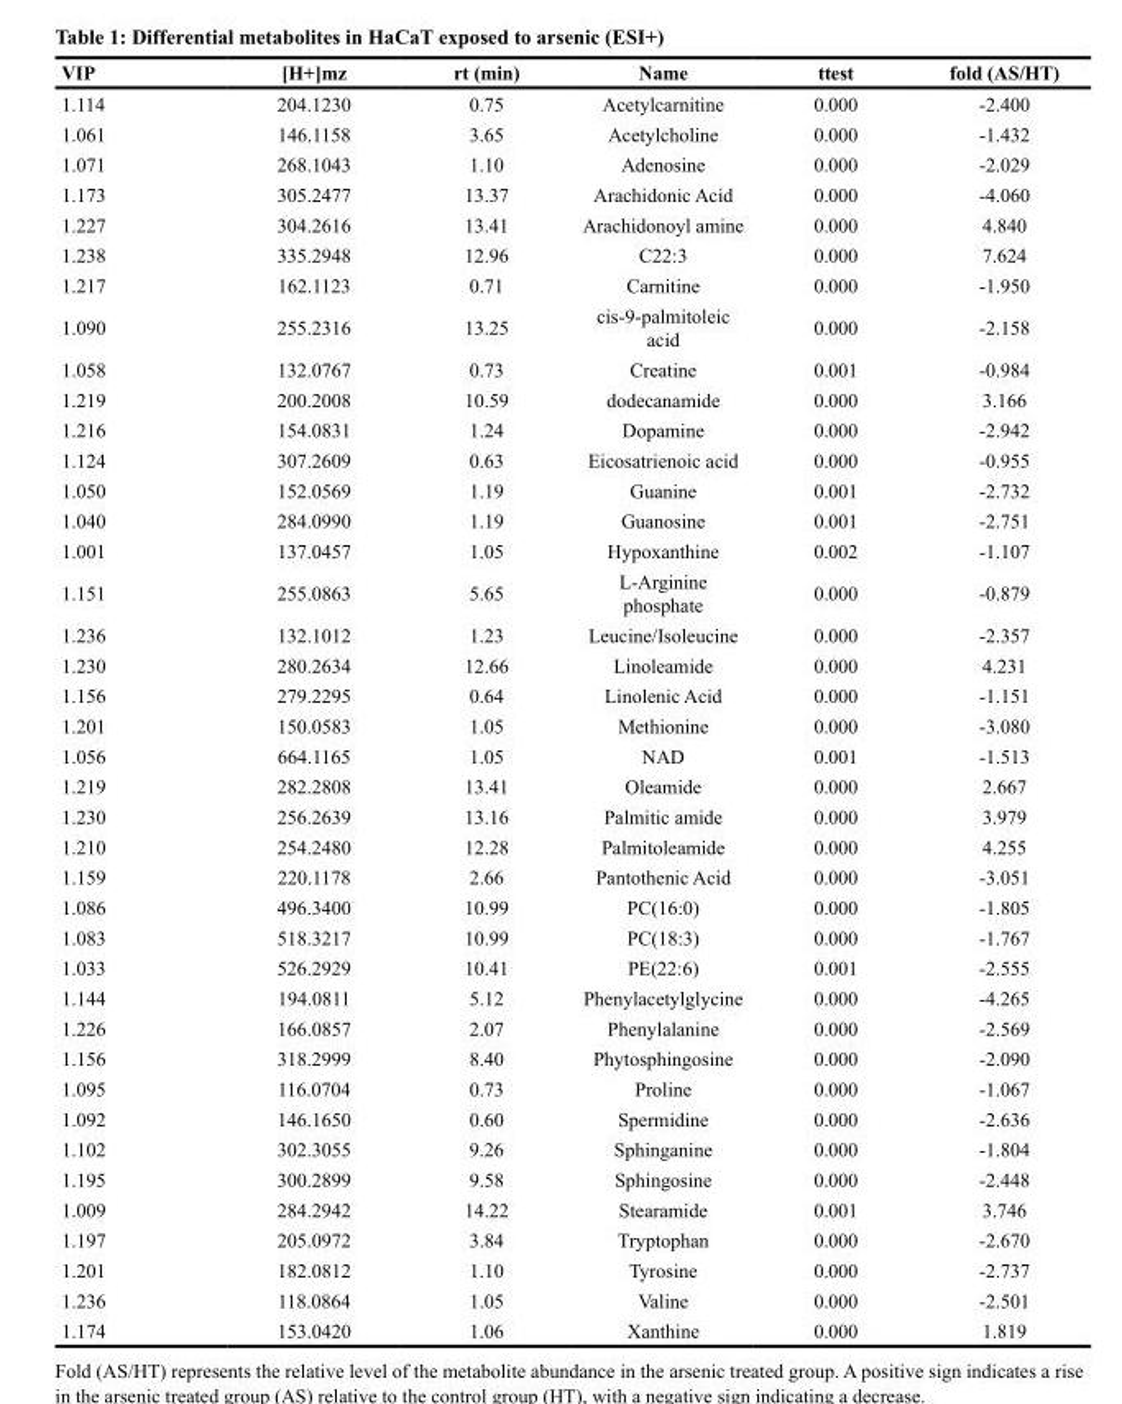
<table><thead><tr><td>VIP</td><td>[H+]mz</td><td>rt (min)</td><td>Name</td><td>ttest</td><td>fold (AS/HT)</td></tr></thead><tbody><tr><td>1.114</td><td>204.1230</td><td>0.75</td><td>Acetylcarnitine</td><td>0.000</td><td>-2.400</td></tr><tr><td>1.061</td><td>146.1158</td><td>3.65</td><td>Acetylcholine</td><td>0.000</td><td>-1.432</td></tr><tr><td>1.071</td><td>268.1043</td><td>1.10</td><td>Adenosine</td><td>0.000</td><td>-2.029</td></tr><tr><td>1.173</td><td>305.2477</td><td>13.37</td><td>Arachidonic Acid</td><td>0.000</td><td>-4.060</td></tr><tr><td>1.227</td><td>304.2616</td><td>13.41</td><td>Arachidonoyl amine</td><td>0.000</td><td>4.840</td></tr><tr><td>1.238</td><td>335.2948</td><td>12.96</td><td>C22:3</td><td>0.000</td><td>7.624</td></tr><tr><td>1.217</td><td>162.1123</td><td>0.71</td><td>Carnitine</td><td>0.000</td><td>-1.950</td></tr><tr><td>1.090</td><td>255.2316</td><td>13.25</td><td>cis-9-palmitoleic acid</td><td>0.000</td><td>-2.158</td></tr><tr><td>1.058</td><td>132.0767</td><td>0.73</td><td>Creatine</td><td>0.001</td><td>-0.984</td></tr><tr><td>1.219</td><td>200.2008</td><td>10.59</td><td>dodecanamide</td><td>0.000</td><td>3.166</td></tr><tr><td>1.216</td><td>154.0831</td><td>1.24</td><td>Dopamine</td><td>0.000</td><td>-2.942</td></tr><tr><td>1.124</td><td>307.2609</td><td>0.63</td><td>Eicosatrienoic acid</td><td>0.000</td><td>-0.955</td></tr><tr><td>1.050</td><td>152.0569</td><td>1.19</td><td>Guanine</td><td>0.001</td><td>-2.732</td></tr><tr><td>1.040</td><td>284.0990</td><td>1.19</td><td>Guanosine</td><td>0.001</td><td>-2.751</td></tr><tr><td>1.001</td><td>137.0457</td><td>1.05</td><td>Hypoxanthine</td><td>0.002</td><td>-1.107</td></tr><tr><td>1.151</td><td>255.0863</td><td>5.65</td><td>L-Arginine phosphate</td><td>0.000</td><td>-0.879</td></tr><tr><td>1.236</td><td>132.1012</td><td>1.23</td><td>Leucine/Isoleucine</td><td>0.000</td><td>-2.357</td></tr><tr><td>1.230</td><td>280.2634</td><td>12.66</td><td>Linoleamide</td><td>0.000</td><td>4.231</td></tr><tr><td>1.156</td><td>279.2295</td><td>0.64</td><td>Linolenic Acid</td><td>0.000</td><td>-1.151</td></tr><tr><td>1.201</td><td>150.0583</td><td>1.05</td><td>Methionine</td><td>0.000</td><td>-3.080</td></tr><tr><td>1.056</td><td>664.1165</td><td>1.05</td><td>NAD</td><td>0.001</td><td>-1.513</td></tr><tr><td>1.219</td><td>282.2808</td><td>13.41</td><td>Oleamide</td><td>0.000</td><td>2.667</td></tr><tr><td>1.230</td><td>256.2639</td><td>13.16</td><td>Palmitic amide</td><td>0.000</td><td>3.979</td></tr><tr><td>1.210</td><td>254.2480</td><td>12.28</td><td>Palmitoleamide</td><td>0.000</td><td>4.255</td></tr><tr><td>1.159</td><td>220.1178</td><td>2.66</td><td>Pantothenic Acid</td><td>0.000</td><td>-3.051</td></tr><tr><td>1.086</td><td>496.3400</td><td>10.99</td><td>PC(16:0)</td><td>0.000</td><td>-1.805</td></tr><tr><td>1.083</td><td>518.3217</td><td>10.99</td><td>PC(18:3)</td><td>0.000</td><td>-1.767</td></tr><tr><td>1.033</td><td>526.2929</td><td>10.41</td><td>PE(22:6)</td><td>0.001</td><td>-2.555</td></tr><tr><td>1.144</td><td>194.0811</td><td>5.12</td><td>Phenylacetylglycine</td><td>0.000</td><td>-4.265</td></tr><tr><td>1.226</td><td>166.0857</td><td>2.07</td><td>Phenylalanine</td><td>0.000</td><td>-2.569</td></tr><tr><td>1.156</td><td>318.2999</td><td>8.40</td><td>Phytosphingosine</td><td>0.000</td><td>-2.090</td></tr><tr><td>1.095</td><td>116.0704</td><td>0.73</td><td>Proline</td><td>0.000</td><td>-1.067</td></tr><tr><td>1.092</td><td>146.1650</td><td>0.60</td><td>Spermidine</td><td>0.000</td><td>-2.636</td></tr><tr><td>1.102</td><td>302.3055</td><td>9.26</td><td>Sphinganine</td><td>0.000</td><td>-1.804</td></tr><tr><td>1.195</td><td>300.2899</td><td>9.58</td><td>Sphingosine</td><td>0.000</td><td>-2.448</td></tr><tr><td>1.009</td><td>284.2942</td><td>14.22</td><td>Stearamide</td><td>0.001</td><td>3.746</td></tr><tr><td>1.197</td><td>205.0972</td><td>3.84</td><td>Tryptophan</td><td>0.000</td><td>-2.670</td></tr><tr><td>1.201</td><td>182.0812</td><td>1.10</td><td>Tyrosine</td><td>0.000</td><td>-2.737</td></tr><tr><td>1.236</td><td>118.0864</td><td>1.05</td><td>Valine</td><td>0.000</td><td>-2.501</td></tr><tr><td>1.174</td><td>153.0420</td><td>1.06</td><td>Xanthine</td><td>0.000</td><td>1.819</td></tr></tbody></table>